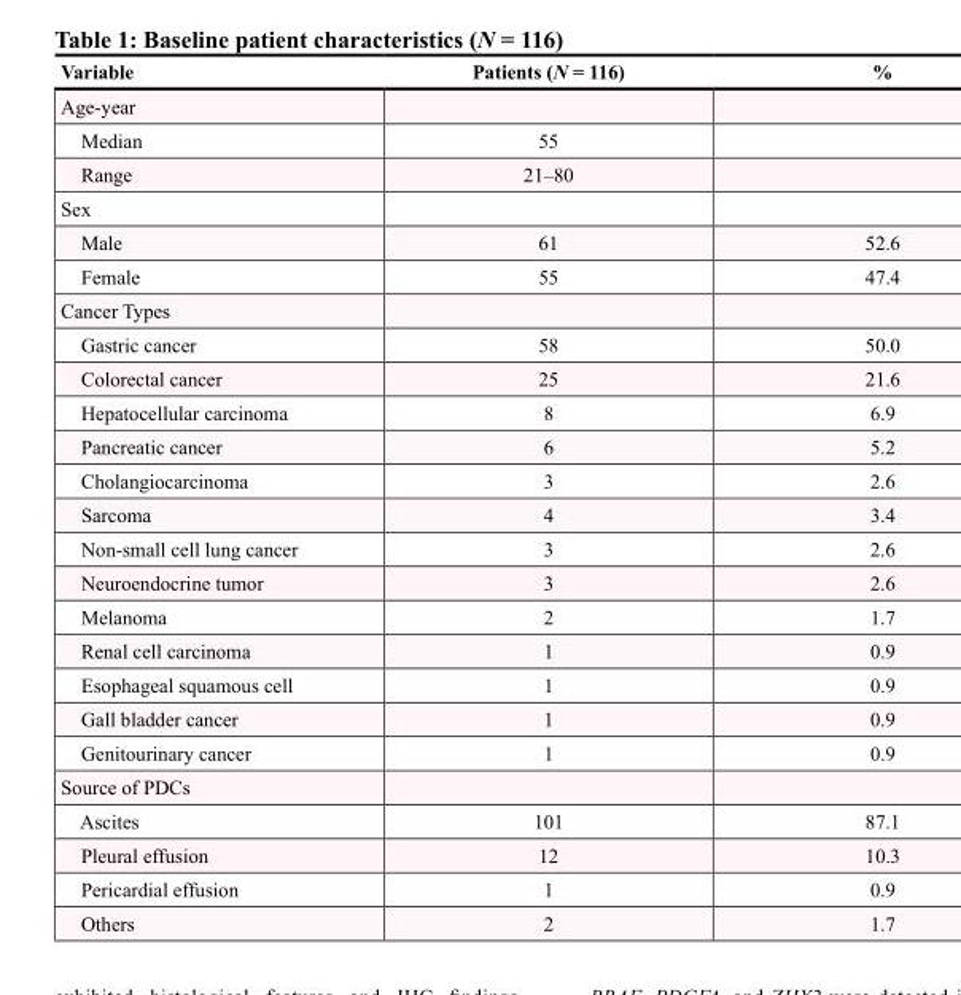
<table><thead><tr><td>Variable</td><td>Patients (N = 116)</td><td>%</td></tr></thead><tbody><tr><td colspan="3">Age-year</td></tr><tr><td>Median</td><td>55</td><td></td></tr><tr><td>Range</td><td>21–80</td><td></td></tr><tr><td colspan="3">Sex</td></tr><tr><td>Male</td><td>61</td><td>52.6</td></tr><tr><td>Female</td><td>55</td><td>47.4</td></tr><tr><td colspan="3">Cancer Types</td></tr><tr><td>Gastric cancer</td><td>58</td><td>50.0</td></tr><tr><td>Colorectal cancer</td><td>25</td><td>21.6</td></tr><tr><td>Hepatocellular carcinoma</td><td>8</td><td>6.9</td></tr><tr><td>Pancreatic cancer</td><td>6</td><td>5.2</td></tr><tr><td>Cholangiocarcinoma</td><td>3</td><td>2.6</td></tr><tr><td>Sarcoma</td><td>4</td><td>3.4</td></tr><tr><td>Non-small cell lung cancer</td><td>3</td><td>2.6</td></tr><tr><td>Neuroendocrine tumor</td><td>3</td><td>2.6</td></tr><tr><td>Melanoma</td><td>2</td><td>1.7</td></tr><tr><td>Renal cell carcinoma</td><td>1</td><td>0.9</td></tr><tr><td>Esophageal squamous cell</td><td>1</td><td>0.9</td></tr><tr><td>Gall bladder cancer</td><td>1</td><td>0.9</td></tr><tr><td>Genitourinary cancer</td><td>1</td><td>0.9</td></tr><tr><td colspan="3">Source of PDCs</td></tr><tr><td>Ascites</td><td>101</td><td>87.1</td></tr><tr><td>Pleural effusion</td><td>12</td><td>10.3</td></tr><tr><td>Pericardial effusion</td><td>1</td><td>0.9</td></tr><tr><td>Others</td><td>2</td><td>1.7</td></tr></tbody></table>